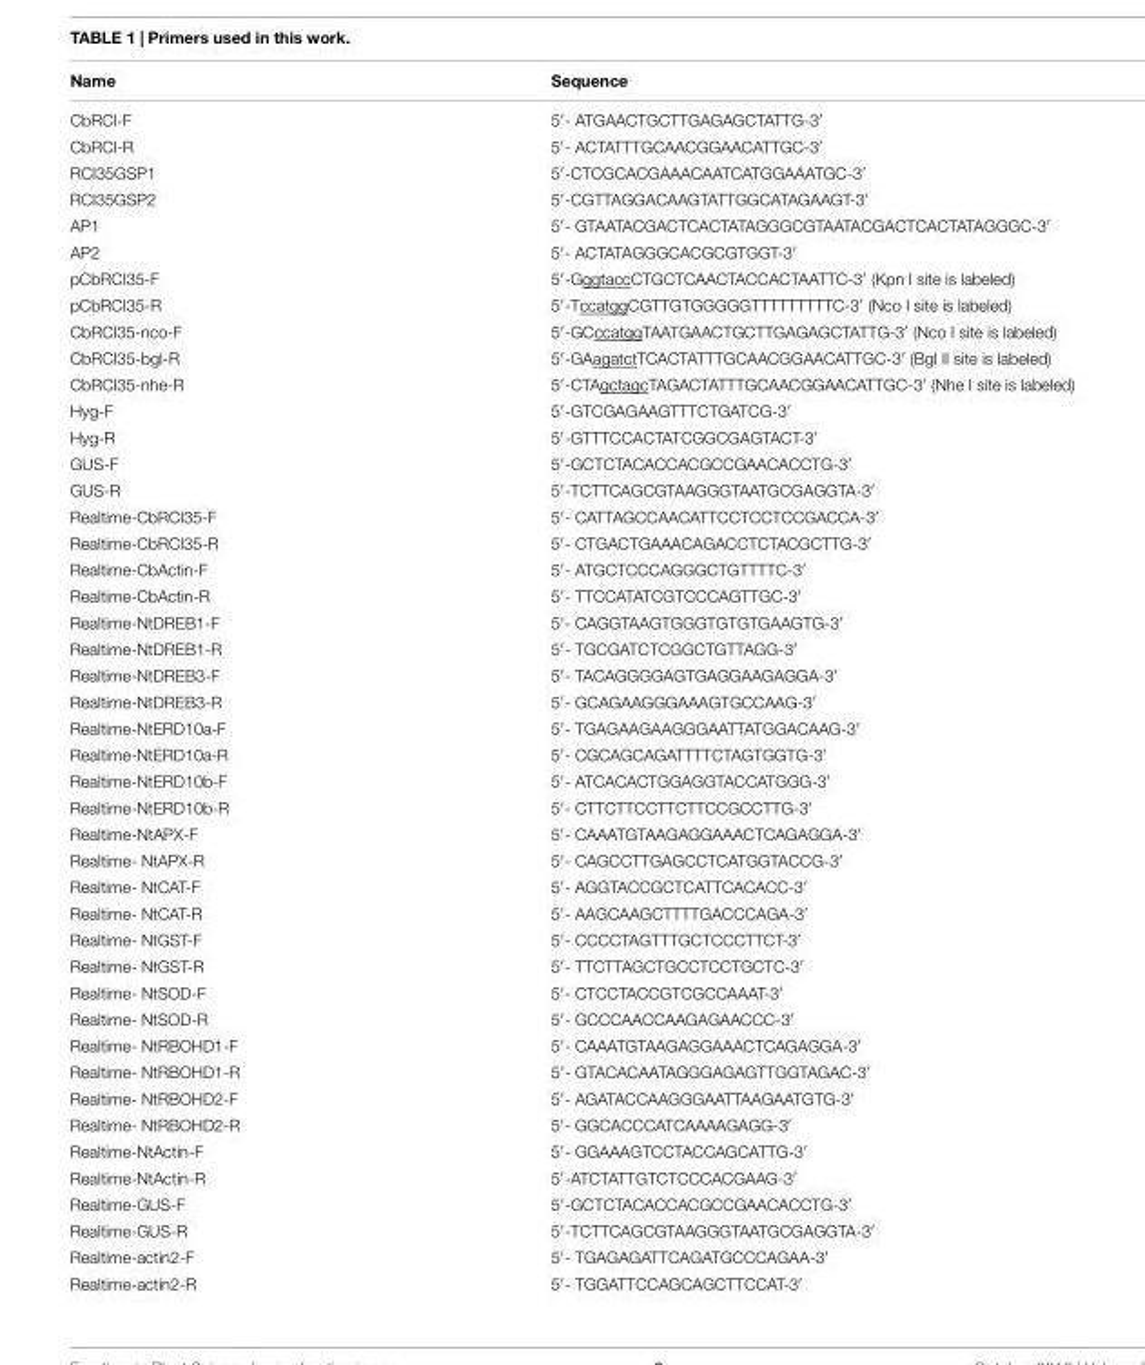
<table><thead><tr><td>Name</td><td>Sequence</td></tr></thead><tbody><tr><td>CbRCI-F</td><td>5′- ATGAACTGCTTGAGAGCTATTG-3′</td></tr><tr><td>CbRCI-R</td><td>5′- ACTATTTGCAACGGAACATTGC-3′</td></tr><tr><td>RCI35GSP1</td><td>5′-CTCGCACGAAACAATCATGGAAATGC-3′</td></tr><tr><td>RCI35GSP2</td><td>5′-CGTTAGGACAAGTATTGGCATAGAAGT-3′</td></tr><tr><td>AP1</td><td>5′- GTAATACGACTCACTATAGGGCGTAATACGACTCACTATAGGGC-3′</td></tr><tr><td>AP2</td><td>5′- ACTATAGGGCACGCGTGGT-3′</td></tr><tr><td>pCbRCI35-F</td><td>5′-GggtaccCTGCTCAACTACCACTAATTC-3′ (Kpn I site is labeled)</td></tr><tr><td>pCbRCI35-R</td><td>5′-TccatggCGTTGTGGGGGTTTTTTTTTC-3′ (Nco I site is labeled)</td></tr><tr><td>CbRCI35-nco-F</td><td>5′-GCccatggTAATGAACTGCTTGAGAGCTATTG-3′ (Nco I site is labeled)</td></tr><tr><td>CbRCI35-bgl-R</td><td>5′-GAagatctTCACTATTTGCAACGGAACATTGC-3′ (Bgl II site is labeled)</td></tr><tr><td>CbRCI35-nhe-R</td><td>5′-CTAgctagcTAGACTATTTGCAACGGAACATTGC-3′ (Nhe I site is labeled)</td></tr><tr><td>Hyg-F</td><td>5′-GTCGAGAAGTTTCTGATCG-3′</td></tr><tr><td>Hyg-R</td><td>5′-GTTTCCACTATCGGCGAGTACT-3′</td></tr><tr><td>GUS-F</td><td>5′-GCTCTACACCACGCCGAACACCTG-3′</td></tr><tr><td>GUS-R</td><td>5′-TCTTCAGCGTAAGGGTAATGCGAGGTA-3′</td></tr><tr><td>Realtime-CbRCI35-F</td><td>5′- CATTAGCCAACATTCCTCCTCCGACCA-3′</td></tr><tr><td>Realtime-CbRCI35-R</td><td>5′- CTGACTGAAACAGACCTCTACGCTTG-3′</td></tr><tr><td>Realtime-CbActin-F</td><td>5′- ATGCTCCCAGGGCTGTTTTC-3′</td></tr><tr><td>Realtime-CbActin-R</td><td>5′- TTCCATATCGTCCCAGTTGC-3′</td></tr><tr><td>Realtime-NtDREB1-F</td><td>5′- CAGGTAAGTGGGTGTGTGAAGTG-3′</td></tr><tr><td>Realtime-NtDREB1-R</td><td>5′- TGCGATCTCGGCTGTTAGG-3′</td></tr><tr><td>Realtime-NtDREB3-F</td><td>5′- TACAGGGGAGTGAGGAAGAGGA-3′</td></tr><tr><td>Realtime-NtDREB3-R</td><td>5′- GCAGAAGGGAAAGTGCCAAG-3′</td></tr><tr><td>Realtime-NtERD10a-F</td><td>5′- TGAGAAGAAGGGAATTATGGACAAG-3′</td></tr><tr><td>Realtime-NtERD10a-R</td><td>5′- CGCAGCAGATTTTCTAGTGGTG-3′</td></tr><tr><td>Realtime-NtERD10b-F</td><td>5′- ATCACACTGGAGGTACCATGGG-3′</td></tr><tr><td>Realtime-NtERD10b-R</td><td>5′- CTTCTTCCTTCTTCCGCCTTG-3′</td></tr><tr><td>Realtime-NtAPX-F</td><td>5′- CAAATGTAAGAGGAAACTCAGAGGA-3′</td></tr><tr><td>Realtime- NtAPX-R</td><td>5′- CAGCCTTGAGCCTCATGGTACCG-3′</td></tr><tr><td>Realtime- NtCAT-F</td><td>5′- AGGTACCGCTCATTCACACC-3′</td></tr><tr><td>Realtime- NtCAT-R</td><td>5′- AAGCAAGCTTTTGACCCAGA-3′</td></tr><tr><td>Realtime- NtGST-F</td><td>5′- CCCCTAGTTTGCTCCCTTCT-3′</td></tr><tr><td>Realtime- NtGST-R</td><td>5′- TTCTTAGCTGCCTCCTGCTC-3′</td></tr><tr><td>Realtime- NtSOD-F</td><td>5′- CTCCTACCGTCGCCAAAT-3′</td></tr><tr><td>Realtime- NtSOD-R</td><td>5′- GCCCAACCAAGAGAACCC-3′</td></tr><tr><td>Realtime- NtRBOHD1-F</td><td>5′- CAAATGTAAGAGGAAACTCAGAGGA-3′</td></tr><tr><td>Realtime- NtRBOHD1-R</td><td>5′- GTACACAATAGGGAGAGTTGGTAGAC-3′</td></tr><tr><td>Realtime- NtRBOHD2-F</td><td>5′- AGATACCAAGGGAATTAAGAATGTG-3′</td></tr><tr><td>Realtime- NtRBOHD2-R</td><td>5′- GGCACCCATCAAAAGAGG-3′</td></tr><tr><td>Realtime-NtActin-F</td><td>5′- GGAAAGTCCTACCAGCATTG-3′</td></tr><tr><td>Realtime-NtActin-R</td><td>5′-ATCTATTGTCTCCCACGAAG-3′</td></tr><tr><td>Realtime-GUS-F</td><td>5′-GCTCTACACCACGCCGAACACCTG-3′</td></tr><tr><td>Realtime-GUS-R</td><td>5′-TCTTCAGCGTAAGGGTAATGCGAGGTA-3′</td></tr><tr><td>Realtime-actin2-F</td><td>5′- TGAGAGATTCAGATGCCCAGAA-3′</td></tr><tr><td>Realtime-actin2-R</td><td>5′- TGGATTCCAGCAGCTTCCAT-3′</td></tr></tbody></table>